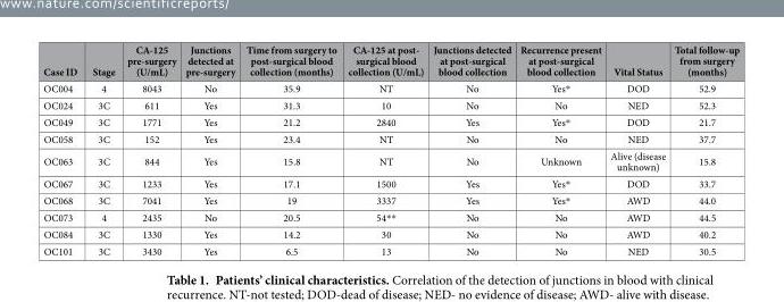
<table><thead><tr><td>Case ID</td><td>Stage</td><td>CA-125 pre-surgery (U/mL)</td><td>Junctions detected at pre-surgery</td><td>Time from surgery to post-surgical blood collection (months)</td><td>CA-125 at post- surgical blood collection (U/mL)</td><td>Junctions detected at post-surgical blood collection</td><td>Recurrence present at post-surgical blood collection</td><td>Vital Status</td><td>Total follow-up from surgery (months)</td></tr></thead><tbody><tr><td>OC004</td><td>4</td><td>8043</td><td>No</td><td>35.9</td><td>NT</td><td>No</td><td>Yes*</td><td>DOD</td><td>52.9</td></tr><tr><td>OC024</td><td>3C</td><td>611</td><td>Yes</td><td>31.3</td><td>10</td><td>No</td><td>No</td><td>NED</td><td>52.3</td></tr><tr><td>OC049</td><td>3C</td><td>1771</td><td>Yes</td><td>21.2</td><td>2840</td><td>Yes</td><td>Yes*</td><td>DOD</td><td>21.7</td></tr><tr><td>OC058</td><td>3C</td><td>152</td><td>Yes</td><td>23.4</td><td>NT</td><td>No</td><td>No</td><td>NED</td><td>37.7</td></tr><tr><td>OC063</td><td>3C</td><td>844</td><td>Yes</td><td>15.8</td><td>NT</td><td>No</td><td>Unknown</td><td>Alive (disease unknown)</td><td>15.8</td></tr><tr><td>OC067</td><td>3C</td><td>1233</td><td>Yes</td><td>17.1</td><td>1500</td><td>Yes</td><td>Yes*</td><td>DOD</td><td>33.7</td></tr><tr><td>OC068</td><td>3C</td><td>7041</td><td>Yes</td><td>19</td><td>3337</td><td>Yes</td><td>Yes*</td><td>AWD</td><td>44.0</td></tr><tr><td>OC073</td><td>4</td><td>2435</td><td>No</td><td>20.5</td><td>54* *</td><td>No</td><td>No</td><td>AWD</td><td>44.5</td></tr><tr><td>OC084</td><td>3C</td><td>1330</td><td>Yes</td><td>14.2</td><td>30</td><td>No</td><td>No</td><td>AWD</td><td>40.2</td></tr><tr><td>OC101</td><td>3C</td><td>3430</td><td>Yes</td><td>6.5</td><td>13</td><td>No</td><td>No</td><td>NED</td><td>30.5</td></tr></tbody></table>